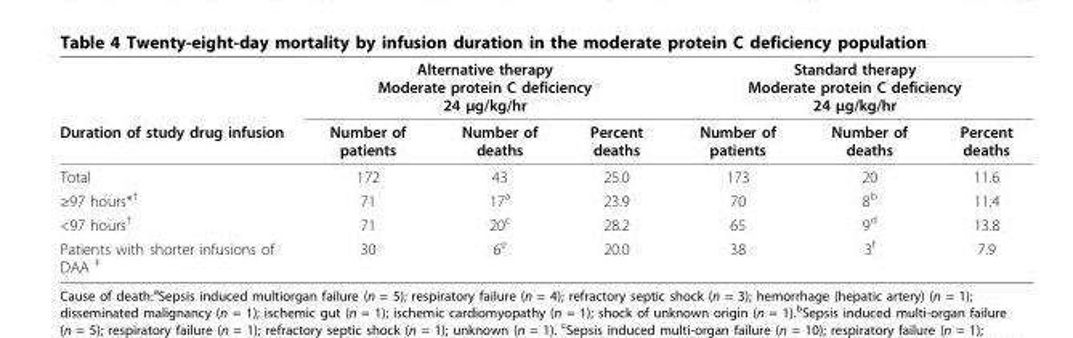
<table><thead><tr><td rowspan="2">Duration of study drug infusion</td><td colspan="3">Alternative therapy Moderate protein C deficiency 24 μg/kg/hr</td><td colspan="3">Standard therapy Moderate protein C deficiency 24 μg/kg/hr</td></tr><tr><td>Number of patients</td><td>Number of deaths</td><td>Percent deaths</td><td>Number of patients</td><td>Number of deaths</td><td>Percent deaths</td></tr></thead><tbody><tr><td>Total</td><td>172</td><td>43</td><td>25.0</td><td>173</td><td>20</td><td>11.6</td></tr><tr><td>≥97 hours*<sup>†</sup></td><td>71</td><td>17<sup>a</sup></td><td>23.9</td><td>70</td><td>8<sup>b</sup></td><td>11.4</td></tr><tr><td>&lt;97 hours<sup>†</sup></td><td>71</td><td>20<sup>c</sup></td><td>28.2</td><td>65</td><td>9<sup>d</sup></td><td>13.8</td></tr><tr><td>Patients with shorter infusions of DAA <sup>‡</sup></td><td>30</td><td>6<sup>e</sup></td><td>20.0</td><td>38</td><td>3<sup>f</sup></td><td>7.9</td></tr></tbody></table>